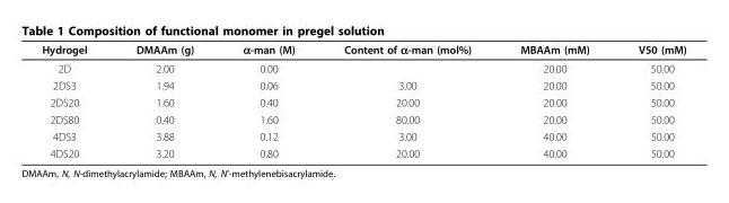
<table><thead><tr><td>Hydrogel</td><td>DMAAm (g)</td><td>α-man (M)</td><td>Content of α-man (mol%)</td><td>MBAAm (mM)</td><td>V50 (mM)</td></tr></thead><tbody><tr><td>2D</td><td>2.00</td><td>0.00</td><td></td><td>20.00</td><td>50.00</td></tr><tr><td>2DS3</td><td>1.94</td><td>0.06</td><td>3.00</td><td>20.00</td><td>50.00</td></tr><tr><td>2DS20</td><td>1.60</td><td>0.40</td><td>20.00</td><td>20.00</td><td>50.00</td></tr><tr><td>2DS80</td><td>0.40</td><td>1.60</td><td>80.00</td><td>20.00</td><td>50.00</td></tr><tr><td>4DS3</td><td>3.88</td><td>0.12</td><td>3.00</td><td>40.00</td><td>50.00</td></tr><tr><td>4DS20</td><td>3.20</td><td>0.80</td><td>20.00</td><td>40.00</td><td>50.00</td></tr></tbody></table>